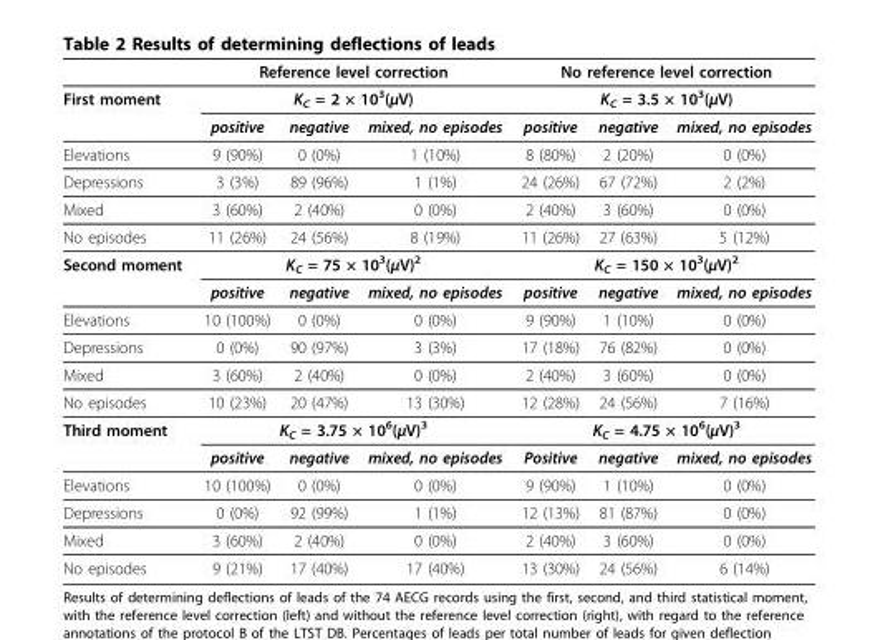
<table><thead><tr><td rowspan="3">First moment</td><td rowspan="2" colspan="3">Reference level correction KC = 2 × 103(μV)</td><td rowspan="2" colspan="3">No reference level correction KC = 3.5 × 103(μV)</td></tr><tr></tr><tr><td>positive</td><td>negative</td><td>mixed, no episodes</td><td>positive</td><td>negative</td><td>mixed, no episodes</td></tr></thead><tbody><tr><td>Elevations</td><td>9 (90%)</td><td>0 (0%)</td><td>1 (10%)</td><td>8 (80%)</td><td>2 (20%)</td><td>0 (0%)</td></tr><tr><td>Depressions</td><td>3 (3%)</td><td>89 (96%)</td><td>1 (1%)</td><td>24 (26%)</td><td>67 (72%)</td><td>2 (2%)</td></tr><tr><td>Mixed</td><td>3 (60%)</td><td>2 (40%)</td><td>0 (0%)</td><td>2 (40%)</td><td>3 (60%)</td><td>0 (0%)</td></tr><tr><td>No episodes</td><td>11 (26%)</td><td>24 (56%)</td><td>8 (19%)</td><td>11 (26%)</td><td>27 (63%)</td><td>5 (12%)</td></tr><tr><td rowspan="2">Second moment</td><td colspan="3">K<sub>C</sub> = 75 × 10<sup>3</sup>(μV)<sup>2</sup></td><td colspan="3">K<sub>C</sub> = 150 × 10<sup>3</sup>(μV)<sup>2</sup></td></tr><tr><td>positive</td><td>negative</td><td>mixed, no episodes</td><td>positive</td><td>negative</td><td>mixed, no episodes</td></tr><tr><td>Elevations</td><td>10 (100%)</td><td>0 (0%)</td><td>0 (0%)</td><td>9 (90%)</td><td>1 (10%)</td><td>0 (0%)</td></tr><tr><td>Depressions</td><td>0 (0%)</td><td>90 (97%)</td><td>3 (3%)</td><td>17 (18%)</td><td>76 (82%)</td><td>0 (0%)</td></tr><tr><td>Mixed</td><td>3 (60%)</td><td>2 (40%)</td><td>0 (0%)</td><td>2 (40%)</td><td>3 (60%)</td><td>0 (0%)</td></tr><tr><td>No episodes</td><td>10 (23%)</td><td>20 (47%)</td><td>13 (30%)</td><td>12 (28%)</td><td>24 (56%)</td><td>7 (16%)</td></tr><tr><td rowspan="2">Third moment</td><td colspan="3">K<sub>C</sub> = 3.75 × 10<sup>6</sup>(μV)<sup>3</sup></td><td colspan="3">K<sub>C</sub> = 4.75 × 10<sup>6</sup>(μV)<sup>3</sup></td></tr><tr><td>positive</td><td>negative</td><td>mixed, no episodes</td><td>Positive</td><td>negative</td><td>mixed, no episodes</td></tr><tr><td>Elevations</td><td>10 (100%)</td><td>0 (0%)</td><td>0 (0%)</td><td>9 (90%)</td><td>1 (10%)</td><td>0 (0%)</td></tr><tr><td>Depressions</td><td>0 (0%)</td><td>92 (99%)</td><td>1 (1%)</td><td>12 (13%)</td><td>81 (87%)</td><td>0 (0%)</td></tr><tr><td>Mixed</td><td>3 (60%)</td><td>2 (40%)</td><td>0 (0%)</td><td>2 (40%)</td><td>3 (60%)</td><td>0 (0%)</td></tr><tr><td>No episodes</td><td>9 (21%)</td><td>17 (40%)</td><td>17 (40%)</td><td>13 (30%)</td><td>24 (56%)</td><td>6 (14%)</td></tr></tbody></table>